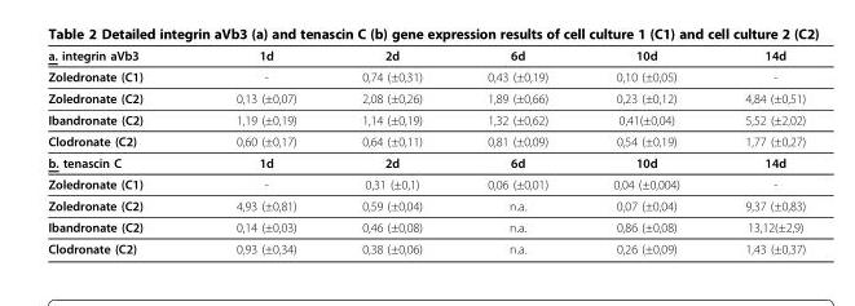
<table><thead><tr><td>a. integrin aVb3</td><td>1d</td><td>2d</td><td>6d</td><td>10d</td><td>14d</td></tr></thead><tbody><tr><td>Zoledronate (C1)</td><td>-</td><td>0,74 (±0,31)</td><td>0,43 (±0,19)</td><td>0,10 (±0,05)</td><td>-</td></tr><tr><td>Zoledronate (C2)</td><td>0,13 (±0,07)</td><td>2,08 (±0,26)</td><td>1,89 (±0,66)</td><td>0,23 (±0,12)</td><td>4,84 (±0,51)</td></tr><tr><td>Ibandronate (C2)</td><td>1,19 (±0,19)</td><td>1,14 (±0,19)</td><td>1,32 (±0,62)</td><td>0,41(±0,04)</td><td>5,52 (±2,02)</td></tr><tr><td>Clodronate (C2)</td><td>0,60 (±0,17)</td><td>0,64 (±0,11)</td><td>0,81 (±0,09)</td><td>0,54 (±0,19)</td><td>1,77 (±0,27)</td></tr><tr><td>b. tenascin C</td><td>1d</td><td>2d</td><td>6d</td><td>10d</td><td>14d</td></tr><tr><td>Zoledronate (C1)</td><td>-</td><td>0,31 (±0,1)</td><td>0,06 (±0,01)</td><td>0,04 (±0,004)</td><td>-</td></tr><tr><td>Zoledronate (C2)</td><td>4,93 (±0,81)</td><td>0,59 (±0,04)</td><td>n.a.</td><td>0,07 (±0,04)</td><td>9,37 (±0,83)</td></tr><tr><td>Ibandronate (C2)</td><td>0,14 (±0,03)</td><td>0,46 (±0,08)</td><td>n.a.</td><td>0,86 (±0,08)</td><td>13,12(±2,9)</td></tr><tr><td>Clodronate (C2)</td><td>0,93 (±0,34)</td><td>0,38 (±0,06)</td><td>n.a.</td><td>0,26 (±0,09)</td><td>1,43 (±0,37)</td></tr></tbody></table>